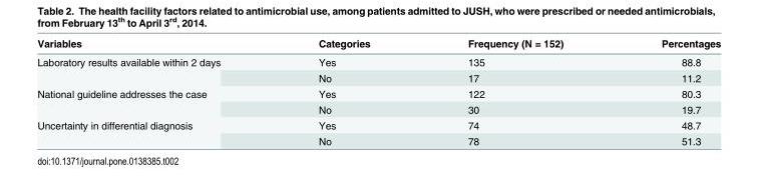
<table><thead><tr><td>Variables</td><td>Categories</td><td>Frequency (N = 152)</td><td>Percentages</td></tr></thead><tbody><tr><td rowspan="2">Laboratory results available within 2 days</td><td>Yes</td><td>135</td><td>88.8</td></tr><tr><td>No</td><td>17</td><td>11.2</td></tr><tr><td rowspan="2">National guideline addresses the case</td><td>Yes</td><td>122</td><td>80.3</td></tr><tr><td>No</td><td>30</td><td>19.7</td></tr><tr><td rowspan="2">Uncertainty in differential diagnosis</td><td>Yes</td><td>74</td><td>48.7</td></tr><tr><td>No</td><td>78</td><td>51.3</td></tr></tbody></table>